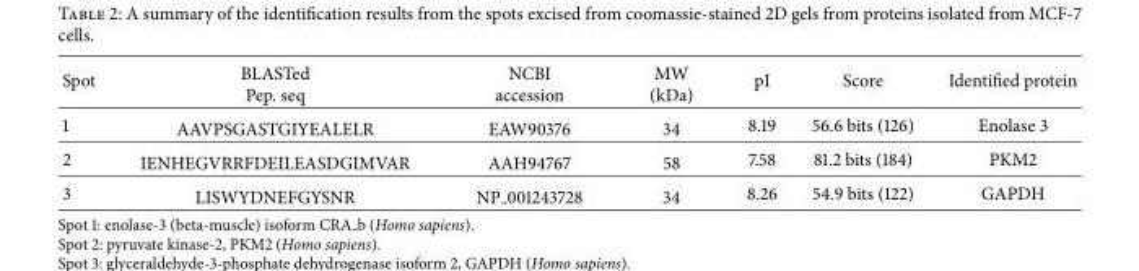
<table><thead><tr><td>Spot</td><td>BLASTed Pep. seq</td><td>NCBI accession</td><td>MW (kDa)</td><td>pI</td><td>Score</td><td>Identified protein</td></tr></thead><tbody><tr><td>1</td><td>AAVPSGASTGIYEALELR</td><td>EAW90376</td><td>34</td><td>8.19</td><td>56.6 bits (126)</td><td>Enolase 3</td></tr><tr><td>2</td><td>IENHEGVRRFDEILEASDGIMVAR</td><td>AAH94767</td><td>58</td><td>7.58</td><td>81.2 bits (184)</td><td>PKM2</td></tr><tr><td>3</td><td>LISWYDNEFGYSNR</td><td>NP 001243728</td><td>34</td><td>8.26</td><td>54.9 bits (122)</td><td>GAPDH</td></tr></tbody></table>